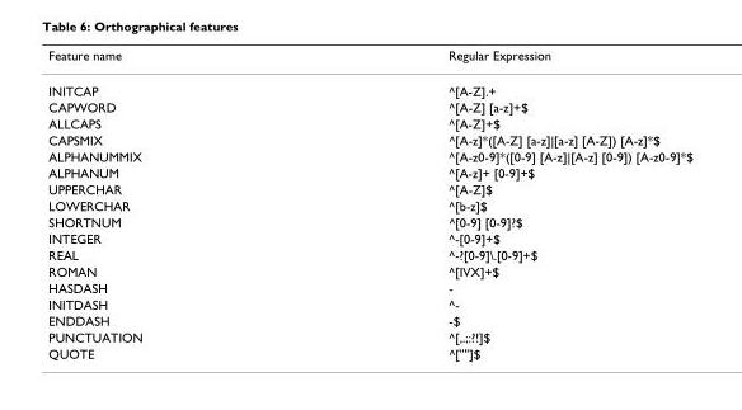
<table><thead><tr><td>Feature name</td><td>Regular Expression</td></tr></thead><tbody><tr><td>INITCAP</td><td>^[A-Z].+</td></tr><tr><td>CAPWORD</td><td>^[A-Z] [a-z]+$</td></tr><tr><td>ALLCAPS</td><td>^[A-Z]+$</td></tr><tr><td>CAPSMIX</td><td>^[A-z]*([A-Z] [a-z]|[a-z] [A-Z]) [A-z]*$</td></tr><tr><td>ALPHANUMMIX</td><td>^[A-z0-9]*([0-9] [A-z]|[A-z] [0-9]) [A-z0-9]*$</td></tr><tr><td>ALPHANUM</td><td>^[A-z]+ [0-9]+$</td></tr><tr><td>UPPERCHAR</td><td>^[A-Z]$</td></tr><tr><td>LOWERCHAR</td><td>^[b-z]$</td></tr><tr><td>SHORTNUM</td><td>^[0-9] [0-9]?$</td></tr><tr><td>INTEGER</td><td>^-[0-9]+$</td></tr><tr><td>REAL</td><td>^-?[0-9]\.[0-9]+$</td></tr><tr><td>ROMAN</td><td>^[IVX]+$</td></tr><tr><td>HASDASH</td><td>-</td></tr><tr><td>INITDASH</td><td>^-</td></tr><tr><td>ENDDASH</td><td>-$</td></tr><tr><td>PUNCTUATION</td><td>^[,.;:?!]$</td></tr><tr><td>QUOTE</td><td>^[&quot;&#x27;&#x27;]$</td></tr></tbody></table>